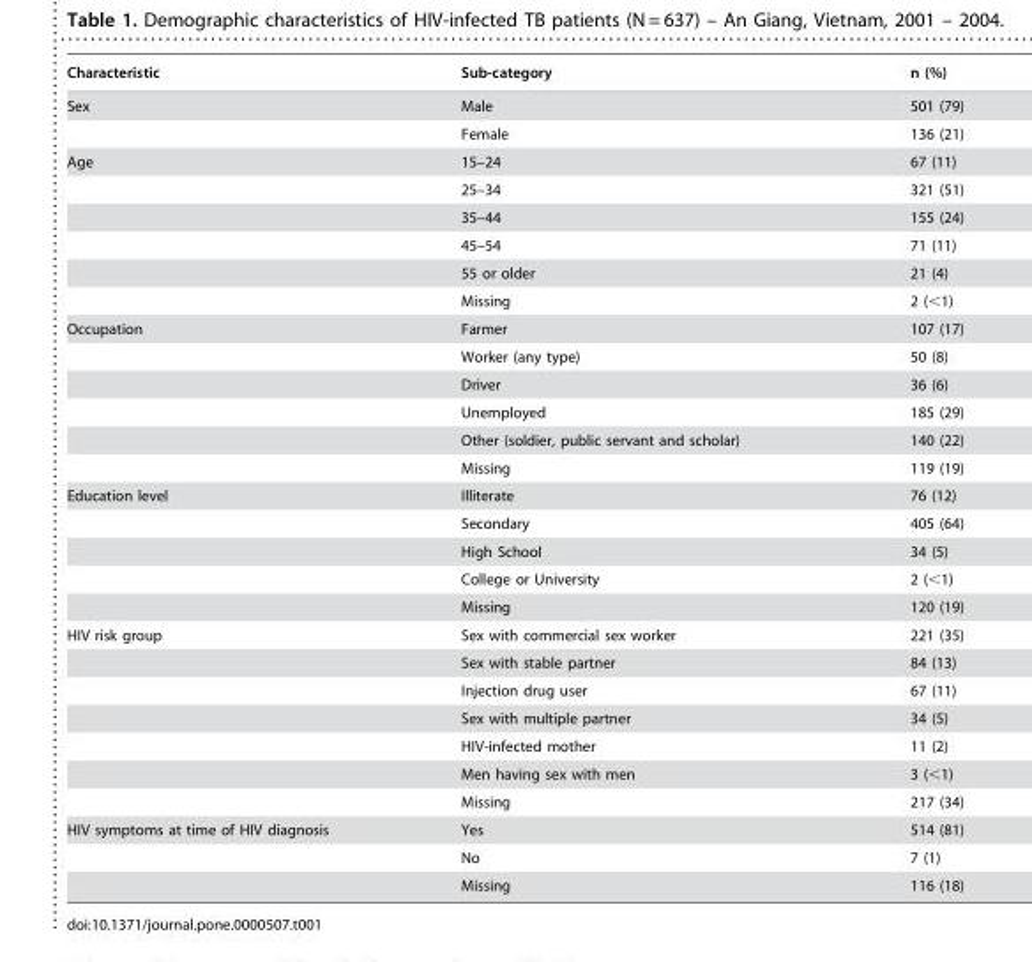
<table><thead><tr><td>Characteristic</td><td>Sub-category</td><td>n (%)</td></tr></thead><tbody><tr><td rowspan="2">Sex</td><td>Male</td><td>501 (79)</td></tr><tr><td>Female</td><td>136 (21)</td></tr><tr><td rowspan="6">Age</td><td>15–24</td><td>67 (11)</td></tr><tr><td>25–34</td><td>321 (51)</td></tr><tr><td>35–44</td><td>155 (24)</td></tr><tr><td>45–54</td><td>71 (11)</td></tr><tr><td>55 or older</td><td>21 (4)</td></tr><tr><td>Missing</td><td>2 (&lt;1)</td></tr><tr><td rowspan="6">Occupation</td><td>Farmer</td><td>107 (17)</td></tr><tr><td>Worker (any type)</td><td>50 (8)</td></tr><tr><td>Driver</td><td>36 (6)</td></tr><tr><td>Unemployed</td><td>185 (29)</td></tr><tr><td>Other (soldier, public servant and scholar)</td><td>140 (22)</td></tr><tr><td>Missing</td><td>119 (19)</td></tr><tr><td rowspan="5">Education level</td><td>Illiterate</td><td>76 (12)</td></tr><tr><td>Secondary</td><td>405 (64)</td></tr><tr><td>High School</td><td>34 (5)</td></tr><tr><td>College or University</td><td>2 (&lt;1)</td></tr><tr><td>Missing</td><td>120 (19)</td></tr><tr><td rowspan="7">HIV risk group</td><td>Sex with commercial sex worker</td><td>221 (35)</td></tr><tr><td>Sex with stable partner</td><td>84 (13)</td></tr><tr><td>Injection drug user</td><td>67 (11)</td></tr><tr><td>Sex with multiple partner</td><td>34 (5)</td></tr><tr><td>HIV-infected mother</td><td>11 (2)</td></tr><tr><td>Men having sex with men</td><td>3 (&lt;1)</td></tr><tr><td>Missing</td><td>217 (34)</td></tr><tr><td rowspan="3">HIV symptoms at time of HIV diagnosis</td><td>Yes</td><td>514 (81)</td></tr><tr><td>No</td><td>7 (1)</td></tr><tr><td>Missing</td><td>116 (18)</td></tr></tbody></table>